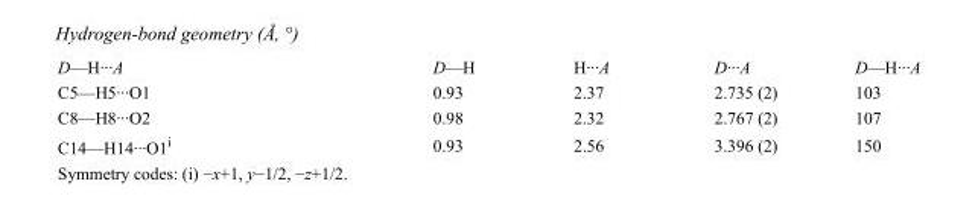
<table><tbody><tr><td>D—H···A</td><td>D—H</td><td>H···A</td><td>D···A</td><td>D—H···A</td></tr><tr><td>C5—H5···O1</td><td>0.93</td><td>2.37</td><td>2.735 (2)</td><td>103</td></tr><tr><td>C8—H8···O2</td><td>0.98</td><td>2.32</td><td>2.767 (2)</td><td>107</td></tr><tr><td>C14—H14···O1<sup>i</sup></td><td>0.93</td><td>2.56</td><td>3.396 (2)</td><td>150</td></tr></tbody></table>